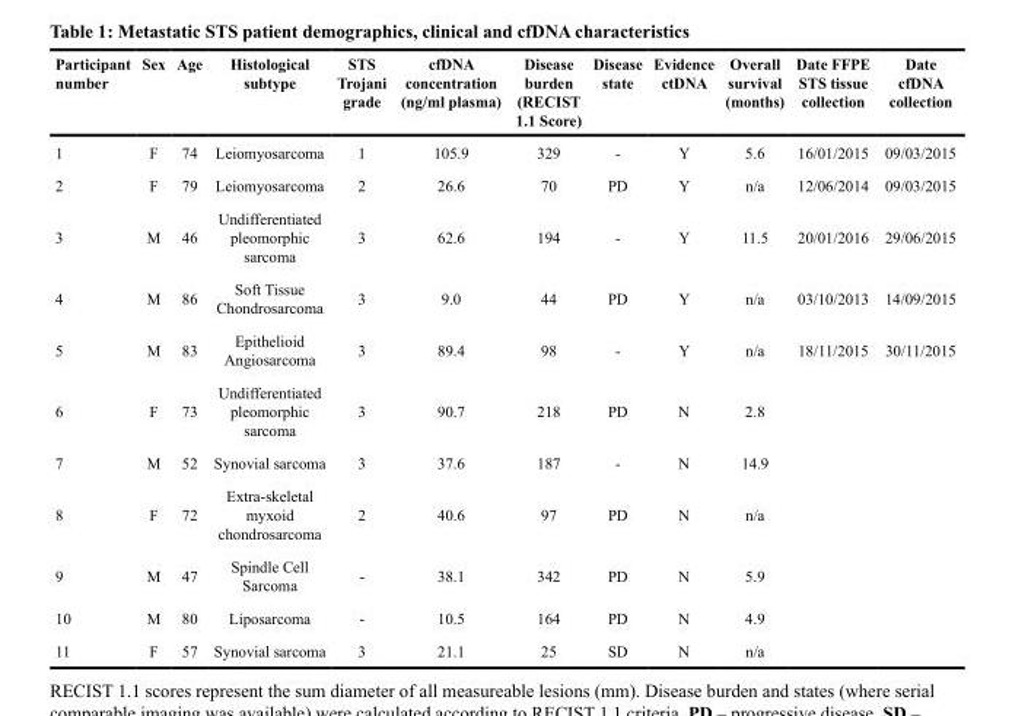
<table><thead><tr><td>Participant number</td><td>Sex</td><td>Age</td><td>Histological subtype</td><td>STS Trojani grade</td><td>cfDNA concentration (ng/ml plasma)</td><td>Disease burden (RECIST 1.1 Score)</td><td>Disease state</td><td>Evidence ctDNA</td><td>Overall survival (months)</td><td>Date FFPE STS tissue collection</td><td>Date cfDNA collection</td></tr></thead><tbody><tr><td>1</td><td>F</td><td>74</td><td>Leiomyosarcoma</td><td>1</td><td>105.9</td><td>329</td><td>-</td><td>Y</td><td>5.6</td><td>16/01/2015</td><td>09/03/2015</td></tr><tr><td>2</td><td>F</td><td>79</td><td>Leiomyosarcoma</td><td>2</td><td>26.6</td><td>70</td><td>PD</td><td>Y</td><td>n/a</td><td>12/06/2014</td><td>09/03/2015</td></tr><tr><td>3</td><td>M</td><td>46</td><td>Undifferentiated pleomorphic sarcoma</td><td>3</td><td>62.6</td><td>194</td><td>-</td><td>Y</td><td>11.5</td><td>20/01/2016</td><td>29/06/2015</td></tr><tr><td>4</td><td>M</td><td>86</td><td>Soft Tissue Chondrosarcoma</td><td>3</td><td>9.0</td><td>44</td><td>PD</td><td>Y</td><td>n/a</td><td>03/10/2013</td><td>14/09/2015</td></tr><tr><td>5</td><td>M</td><td>83</td><td>Epithelioid Angiosarcoma</td><td>3</td><td>89.4</td><td>98</td><td>-</td><td>Y</td><td>n/a</td><td>18/11/2015</td><td>30/11/2015</td></tr><tr><td>6</td><td>F</td><td>73</td><td>Undifferentiated pleomorphic sarcoma</td><td>3</td><td>90.7</td><td>218</td><td>PD</td><td>N</td><td>2.8</td><td></td><td></td></tr><tr><td>7</td><td>M</td><td>52</td><td>Synovial sarcoma</td><td>3</td><td>37.6</td><td>187</td><td>-</td><td>N</td><td>14.9</td><td></td><td></td></tr><tr><td>8</td><td>F</td><td>72</td><td>Extra-skeletal myxoid chondrosarcoma</td><td>2</td><td>40.6</td><td>97</td><td>PD</td><td>N</td><td>n/a</td><td></td><td></td></tr><tr><td>9</td><td>M</td><td>47</td><td>Spindle Cell Sarcoma</td><td>-</td><td>38.1</td><td>342</td><td>PD</td><td>N</td><td>5.9</td><td></td><td></td></tr><tr><td>10</td><td>M</td><td>80</td><td>Liposarcoma</td><td>-</td><td>10.5</td><td>164</td><td>PD</td><td>N</td><td>4.9</td><td></td><td></td></tr><tr><td>11</td><td>F</td><td>57</td><td>Synovial sarcoma</td><td>3</td><td>21.1</td><td>25</td><td>SD</td><td>N</td><td>n/a</td><td></td><td></td></tr></tbody></table>